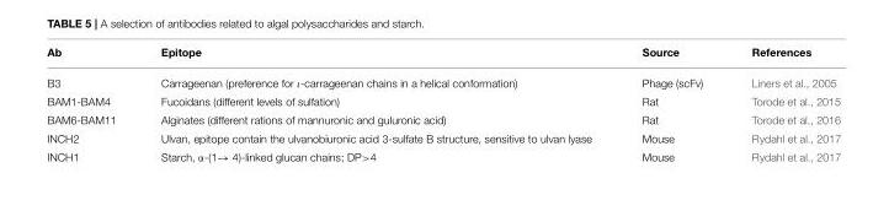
<table><thead><tr><td>Ab</td><td>Epitope</td><td>Source</td><td>References</td></tr></thead><tbody><tr><td>B3</td><td>Carrageenan (preference for ι-carrageenan chains in a helical conformation)</td><td>Phage (scFv)</td><td>Liners et al., 2005</td></tr><tr><td>BAM1-BAM4</td><td>Fucoidans (different levels of sulfation)</td><td>Rat</td><td>Torode et al., 2015</td></tr><tr><td>BAM6-BAM11</td><td>Alginates (different rations of mannuronic and guluronic acid)</td><td>Rat</td><td>Torode et al., 2016</td></tr><tr><td>INCH2</td><td>Ulvan, epitope contain the ulvanobiuronic acid 3-sulfate B structure, sensitive to ulvan lyase</td><td>Mouse</td><td>Rydahl et al., 2017</td></tr><tr><td>INCH1</td><td>Starch, α-(1→ 4)-linked glucan chains; DP&gt;4</td><td>Mouse</td><td>Rydahl et al., 2017</td></tr></tbody></table>